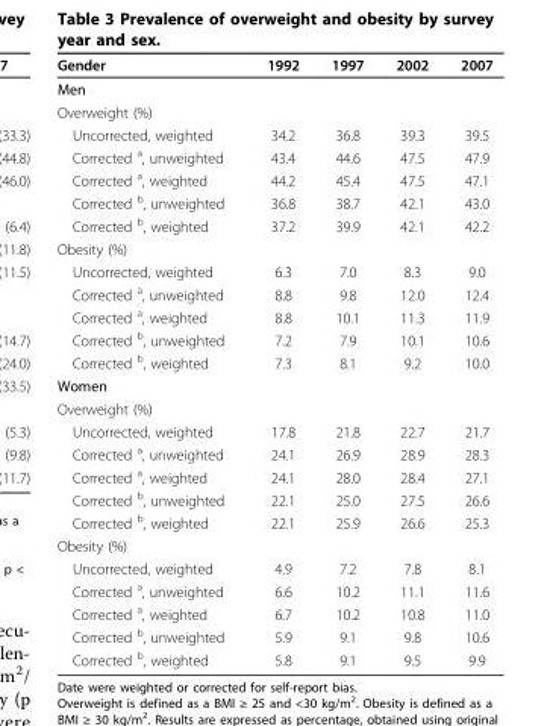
<table><thead><tr><td>Gender</td><td>1992</td><td>1997</td><td>2002</td><td>2007</td></tr></thead><tbody><tr><td colspan="5">Men</td></tr><tr><td colspan="5">Overweight (%)</td></tr><tr><td>Uncorrected, weighted</td><td>34.2</td><td>36.8</td><td>39.3</td><td>39.5</td></tr><tr><td>Corrected <sup>a</sup>, unweighted</td><td>43.4</td><td>44.6</td><td>47.5</td><td>47.9</td></tr><tr><td>Corrected <sup>a</sup>, weighted</td><td>44.2</td><td>45.4</td><td>47.5</td><td>47.1</td></tr><tr><td>Corrected <sup>b</sup>, unweighted</td><td>36.8</td><td>38.7</td><td>42.1</td><td>43.0</td></tr><tr><td>Corrected <sup>b</sup>, weighted</td><td>37.2</td><td>39.9</td><td>42.1</td><td>42.2</td></tr><tr><td colspan="5">Obesity (%)</td></tr><tr><td>Uncorrected, weighted</td><td>6.3</td><td>7.0</td><td>8.3</td><td>9.0</td></tr><tr><td>Corrected <sup>a</sup>, unweighted</td><td>8.8</td><td>9.8</td><td>12.0</td><td>12.4</td></tr><tr><td>Corrected <sup>a</sup>, weighted</td><td>8.8</td><td>10.1</td><td>11.3</td><td>11.9</td></tr><tr><td>Corrected <sup>b</sup>, unweighted</td><td>7.2</td><td>7.9</td><td>10.1</td><td>10.6</td></tr><tr><td>Corrected <sup>b</sup>, weighted</td><td>7.3</td><td>8.1</td><td>9.2</td><td>10.0</td></tr><tr><td colspan="5">Women</td></tr><tr><td colspan="5">Overweight (%)</td></tr><tr><td>Uncorrected, weighted</td><td>17.8</td><td>21.8</td><td>22.7</td><td>21.7</td></tr><tr><td>Corrected <sup>a</sup>, unweighted</td><td>24.1</td><td>26.9</td><td>28.9</td><td>28.3</td></tr><tr><td>Corrected <sup>a</sup>, weighted</td><td>24.1</td><td>28.0</td><td>28.4</td><td>27.1</td></tr><tr><td>Corrected <sup>b</sup>, unweighted</td><td>22.1</td><td>25.0</td><td>27.5</td><td>26.6</td></tr><tr><td>Corrected <sup>b</sup>, weighted</td><td>22.1</td><td>25.9</td><td>26.6</td><td>25.3</td></tr><tr><td colspan="5">Obesity (%)</td></tr><tr><td>Uncorrected, weighted</td><td>4.9</td><td>7.2</td><td>7.8</td><td>8.1</td></tr><tr><td>Corrected <sup>a</sup>, unweighted</td><td>6.6</td><td>10.2</td><td>11.1</td><td>11.6</td></tr><tr><td>Corrected <sup>a</sup>, weighted</td><td>6.7</td><td>10.2</td><td>10.8</td><td>11.0</td></tr><tr><td>Corrected <sup>b</sup>, unweighted</td><td>5.9</td><td>9.1</td><td>9.8</td><td>10.6</td></tr><tr><td>Corrected <sup>b</sup>, weighted</td><td>5.8</td><td>9.1</td><td>9.5</td><td>9.9</td></tr></tbody></table>